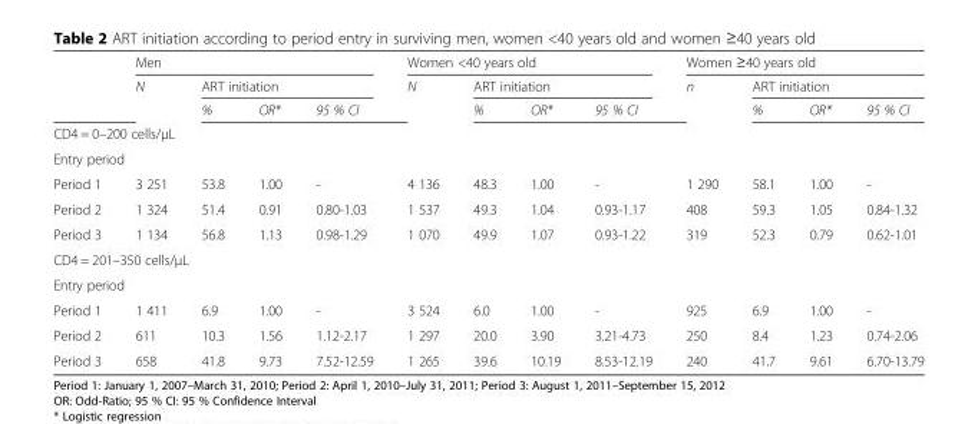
<table><thead><tr><td rowspan="3"></td><td colspan="4">Men</td><td colspan="4">Women &lt;40 years old</td><td colspan="4">Women ≥40 years old</td></tr><tr><td rowspan="2">N</td><td colspan="3">ART initiation</td><td rowspan="2">N</td><td colspan="3">ART initiation</td><td rowspan="2">n</td><td colspan="3">ART initiation</td></tr><tr><td>%</td><td>OR*</td><td>95 % CI</td><td>%</td><td>OR*</td><td>95 % CI</td><td>%</td><td>OR*</td><td>95 % CI</td></tr></thead><tbody><tr><td colspan="13">CD4 = 0–200 cells/μL</td></tr><tr><td colspan="13">Entry period</td></tr><tr><td>Period 1</td><td>3 251</td><td>53.8</td><td>1.00</td><td>-</td><td>4 136</td><td>48.3</td><td>1.00</td><td>-</td><td>1 290</td><td>58.1</td><td>1.00</td><td>-</td></tr><tr><td>Period 2</td><td>1 324</td><td>51.4</td><td>0.91</td><td>0.80-1.03</td><td>1 537</td><td>49.3</td><td>1.04</td><td>0.93-1.17</td><td>408</td><td>59.3</td><td>1.05</td><td>0.84-1.32</td></tr><tr><td>Period 3</td><td>1 134</td><td>56.8</td><td>1.13</td><td>0.98-1.29</td><td>1 070</td><td>49.9</td><td>1.07</td><td>0.93-1.22</td><td>319</td><td>52.3</td><td>0.79</td><td>0.62-1.01</td></tr><tr><td colspan="13">CD4 = 201–350 cells/μL</td></tr><tr><td colspan="13">Entry period</td></tr><tr><td>Period 1</td><td>1 411</td><td>6.9</td><td>1.00</td><td>-</td><td>3 524</td><td>6.0</td><td>1.00</td><td>-</td><td>925</td><td>6.9</td><td>1.00</td><td>-</td></tr><tr><td>Period 2</td><td>611</td><td>10.3</td><td>1.56</td><td>1.12-2.17</td><td>1 297</td><td>20.0</td><td>3.90</td><td>3.21-4.73</td><td>250</td><td>8.4</td><td>1.23</td><td>0.74-2.06</td></tr><tr><td>Period 3</td><td>658</td><td>41.8</td><td>9.73</td><td>7.52-12.59</td><td>1 265</td><td>39.6</td><td>10.19</td><td>8.53-12.19</td><td>240</td><td>41.7</td><td>9.61</td><td>6.70-13.79</td></tr></tbody></table>